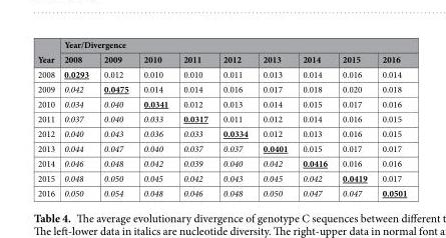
<table><thead><tr><td rowspan="2">Year</td><td colspan="9">Year/Divergence</td></tr><tr><td>2008</td><td>2009</td><td>2010</td><td>2011</td><td>2012</td><td>2013</td><td>2014</td><td>2015</td><td>2016</td></tr></thead><tbody><tr><td>2008</td><td>0.0293</td><td>0.012</td><td>0.010</td><td>0.010</td><td>0.011</td><td>0.013</td><td>0.014</td><td>0.016</td><td>0.014</td></tr><tr><td>2009</td><td>0.042</td><td>0.0475</td><td>0.014</td><td>0.014</td><td>0.016</td><td>0.017</td><td>0.018</td><td>0.020</td><td>0.018</td></tr><tr><td>2010</td><td>0.034</td><td>0.040</td><td>0.0341</td><td>0.012</td><td>0.013</td><td>0.014</td><td>0.015</td><td>0.017</td><td>0.016</td></tr><tr><td>2011</td><td>0.037</td><td>0.040</td><td>0.033</td><td>0.0317</td><td>0.011</td><td>0.012</td><td>0.014</td><td>0.016</td><td>0.015</td></tr><tr><td>2012</td><td>0.040</td><td>0.043</td><td>0.036</td><td>0.033</td><td>0.0334</td><td>0.012</td><td>0.013</td><td>0.016</td><td>0.015</td></tr><tr><td>2013</td><td>0.044</td><td>0.047</td><td>0.040</td><td>0.037</td><td>0.037</td><td>0.0401</td><td>0.015</td><td>0.017</td><td>0.017</td></tr><tr><td>2014</td><td>0.046</td><td>0.048</td><td>0.042</td><td>0.039</td><td>0.040</td><td>0.042</td><td>0.0416</td><td>0.016</td><td>0.016</td></tr><tr><td>2015</td><td>0.048</td><td>0.050</td><td>0.045</td><td>0.042</td><td>0.043</td><td>0.045</td><td>0.042</td><td>0.0419</td><td>0.017</td></tr><tr><td>2016</td><td>0.050</td><td>0.054</td><td>0.048</td><td>0.046</td><td>0.048</td><td>0.050</td><td>0.047</td><td>0.047</td><td>0.0501</td></tr></tbody></table>